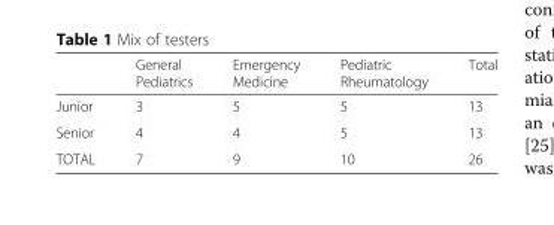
<table><thead><tr><td></td><td>General Pediatrics</td><td>Emergency Medicine</td><td>Pediatric Rheumatology</td><td>Total</td></tr></thead><tbody><tr><td>Junior</td><td>3</td><td>5</td><td>5</td><td>13</td></tr><tr><td>Senior</td><td>4</td><td>4</td><td>5</td><td>13</td></tr><tr><td>TOTAL</td><td>7</td><td>9</td><td>10</td><td>26</td></tr></tbody></table>